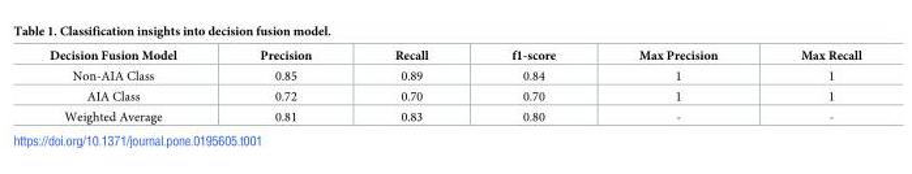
<table><thead><tr><td>Decision Fusion Model</td><td>Precision</td><td>Recall</td><td>f1-score</td><td>Max Precision</td><td>Max Recall</td></tr></thead><tbody><tr><td>Non-AIA Class</td><td>0.85</td><td>0.89</td><td>0.84</td><td>1</td><td>1</td></tr><tr><td>AIA Class</td><td>0.72</td><td>0.70</td><td>0.70</td><td>1</td><td>1</td></tr><tr><td>Weighted Average</td><td>0.81</td><td>0.83</td><td>0.80</td><td>-</td><td>-</td></tr></tbody></table>